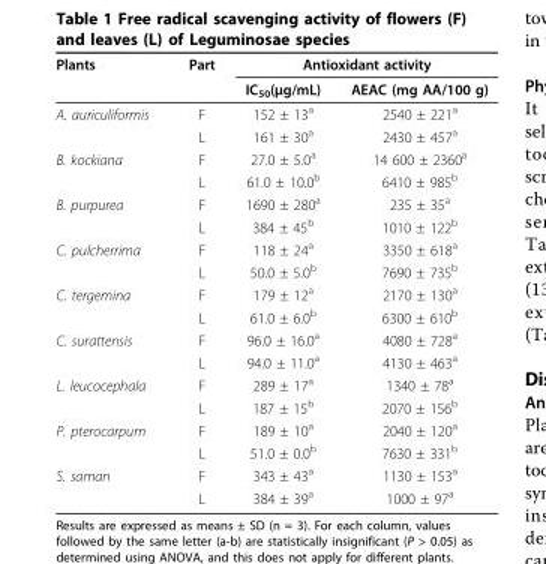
<table><thead><tr><td rowspan="2">Plants</td><td rowspan="2">Part</td><td colspan="2">Antioxidant activity</td></tr><tr><td>IC<sub>50</sub>(μg/mL)</td><td>AEAC (mg AA/100 g)</td></tr></thead><tbody><tr><td rowspan="2">A. auriculiformis</td><td>F</td><td>152 ± 13<sup>a</sup></td><td>2540 ± 221<sup>a</sup></td></tr><tr><td>L</td><td>161 ± 30<sup>a</sup></td><td>2430 ± 457<sup>a</sup></td></tr><tr><td rowspan="2">B. kockiana</td><td>F</td><td>27.0 ± 5.0<sup>a</sup></td><td>14 600 ± 2360<sup>a</sup></td></tr><tr><td>L</td><td>61.0 ± 10.0<sup>b</sup></td><td>6410 ± 985<sup>b</sup></td></tr><tr><td rowspan="2">B. purpurea</td><td>F</td><td>1690 ± 280<sup>a</sup></td><td>235 ± 35<sup>a</sup></td></tr><tr><td>L</td><td>384 ± 45<sup>b</sup></td><td>1010 ± 122<sup>b</sup></td></tr><tr><td rowspan="2">C. pulcherrima</td><td>F</td><td>118 ± 24<sup>a</sup></td><td>3350 ± 618<sup>a</sup></td></tr><tr><td>L</td><td>50.0 ± 5.0<sup>b</sup></td><td>7690 ± 735<sup>b</sup></td></tr><tr><td rowspan="2">C. tergemina</td><td>F</td><td>179 ± 12<sup>a</sup></td><td>2170 ± 130<sup>a</sup></td></tr><tr><td>L</td><td>61.0 ± 6.0<sup>b</sup></td><td>6300 ± 610<sup>b</sup></td></tr><tr><td rowspan="2">C. surattensis</td><td>F</td><td>96.0 ± 16.0<sup>a</sup></td><td>4080 ± 728<sup>a</sup></td></tr><tr><td>L</td><td>94.0 ± 11.0<sup>a</sup></td><td>4130 ± 463<sup>a</sup></td></tr><tr><td rowspan="2">L. leucocephala</td><td>F</td><td>289 ± 17<sup>a</sup></td><td>1340 ± 78<sup>a</sup></td></tr><tr><td>L</td><td>187 ± 15<sup>b</sup></td><td>2070 ± 156<sup>b</sup></td></tr><tr><td rowspan="2">P. pterocarpum</td><td>F</td><td>189 ± 10<sup>a</sup></td><td>2040 ± 120<sup>a</sup></td></tr><tr><td>L</td><td>51.0 ± 0.0<sup>b</sup></td><td>7630 ± 331<sup>b</sup></td></tr><tr><td rowspan="2">S. saman</td><td>F</td><td>343 ± 43<sup>a</sup></td><td>1130 ± 153<sup>a</sup></td></tr><tr><td>L</td><td>384 ± 39<sup>a</sup></td><td>1000 ± 97<sup>a</sup></td></tr></tbody></table>